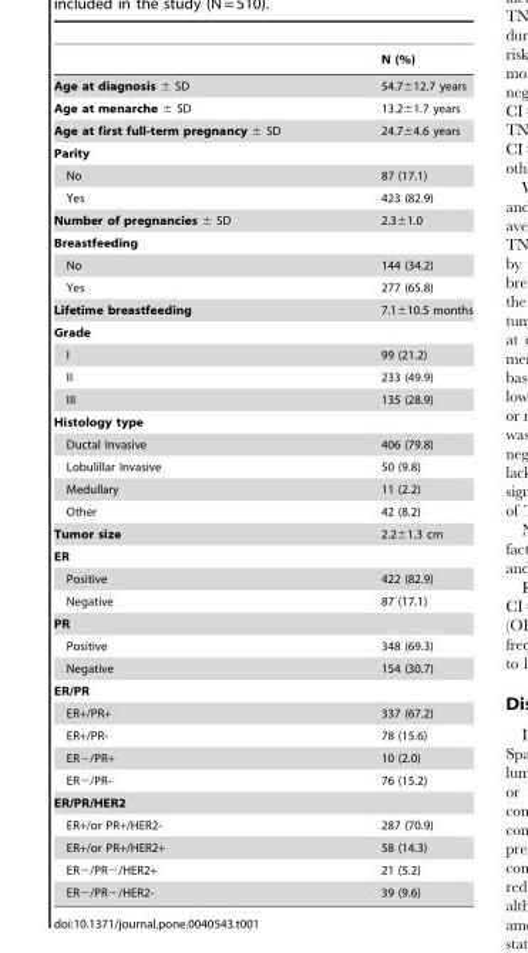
<table><thead><tr><td></td><td>N (%)</td></tr></thead><tbody><tr><td>Age at diagnosis ± SD</td><td>54.7±12.7 years</td></tr><tr><td>Age at menarche ± SD</td><td>13.2±1.7 years</td></tr><tr><td>Age at first full-term pregnancy ± SD</td><td>24.7±4.6 years</td></tr><tr><td colspan="2">Parity</td></tr><tr><td>No</td><td>87 (17.1)</td></tr><tr><td>Yes</td><td>423 (82.9)</td></tr><tr><td>Number of pregnancies ± SD</td><td>2.3±1.0</td></tr><tr><td colspan="2">Breastfeeding</td></tr><tr><td>No</td><td>144 (34.2)</td></tr><tr><td>Yes</td><td>277 (65.8)</td></tr><tr><td>Lifetime breastfeeding</td><td>7.1±10.5 months</td></tr><tr><td colspan="2">Grade</td></tr><tr><td>I</td><td>99 (21.2)</td></tr><tr><td>II</td><td>233 (49.9)</td></tr><tr><td>III</td><td>135 (28.9)</td></tr><tr><td colspan="2">Histology type</td></tr><tr><td>Ductal Invasive</td><td>406 (79.8)</td></tr><tr><td>Lobulillar Invasive</td><td>50 (9.8)</td></tr><tr><td>Medullary</td><td>11 (2.2)</td></tr><tr><td>Other</td><td>42 (8.2)</td></tr><tr><td>Tumor size</td><td>2.2±1.3 cm</td></tr><tr><td colspan="2">ER</td></tr><tr><td>Positive</td><td>422 (82.9)</td></tr><tr><td>Negative</td><td>87 (17.1)</td></tr><tr><td colspan="2">PR</td></tr><tr><td>Positive</td><td>348 (69.3)</td></tr><tr><td>Negative</td><td>154 (30.7)</td></tr><tr><td colspan="2">ER/PR</td></tr><tr><td>ER+/PR+</td><td>337 (67.2)</td></tr><tr><td>ER+/PR-</td><td>78 (15.6)</td></tr><tr><td>ER−/PR+</td><td>10 (2.0)</td></tr><tr><td>ER−/PR-</td><td>76 (15.2)</td></tr><tr><td colspan="2">ER/PR/HER2</td></tr><tr><td>ER+/or PR+/HER2-</td><td>287 (70.9)</td></tr><tr><td>ER+/or PR+/HER2+</td><td>58 (14.3)</td></tr><tr><td>ER−/PR−/HER2+</td><td>21 (5.2)</td></tr><tr><td>ER−/PR−/HER2-</td><td>39 (9.6)</td></tr></tbody></table>